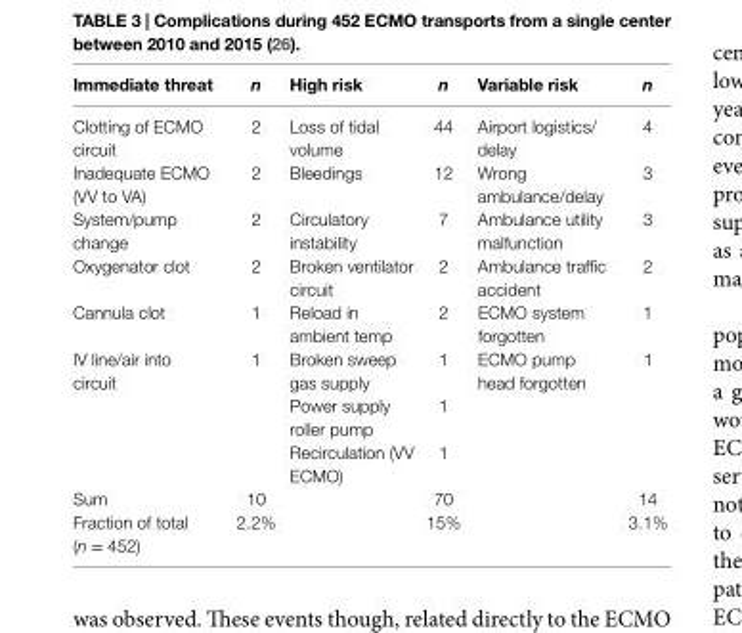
<table><thead><tr><td>immediate threat</td><td>n</td><td>High risk</td><td>n</td><td>variable risk</td><td>n</td></tr></thead><tbody><tr><td>Clotting of ECMO circuit</td><td>2</td><td>Loss of tidal volume</td><td>44</td><td>Airport logistics/ delay</td><td>4</td></tr><tr><td>Inadequate ECMO (VV to VA)</td><td>2</td><td>Bleedings</td><td>12</td><td>Wrong ambulance/delay</td><td>3</td></tr><tr><td>System/pump change</td><td>2</td><td>Circulatory instability</td><td>7</td><td>Ambulance utility malfunction</td><td>3</td></tr><tr><td>Oxygenator clot</td><td>2</td><td>Broken ventilator circuit</td><td>2</td><td>Ambulance traffic accident</td><td>2</td></tr><tr><td>Cannula clot</td><td>1</td><td>Reload in ambient temp</td><td>2</td><td>ECMO system forgotten</td><td>1</td></tr><tr><td rowspan="3">IV line/air into circuit</td><td>1</td><td>Broken sweep gas supply</td><td>1</td><td>ECMO pump head forgotten</td><td>1</td></tr><tr><td></td><td>Power supply roller pump</td><td>1</td><td></td><td></td></tr><tr><td></td><td>Recirculation (VV ECMO)</td><td>1</td><td></td><td></td></tr><tr><td>Sum</td><td>10</td><td></td><td>70</td><td></td><td>14</td></tr><tr><td>Fraction of total (n = 452)</td><td>2.2%</td><td></td><td>15%</td><td></td><td>3.1%</td></tr></tbody></table>